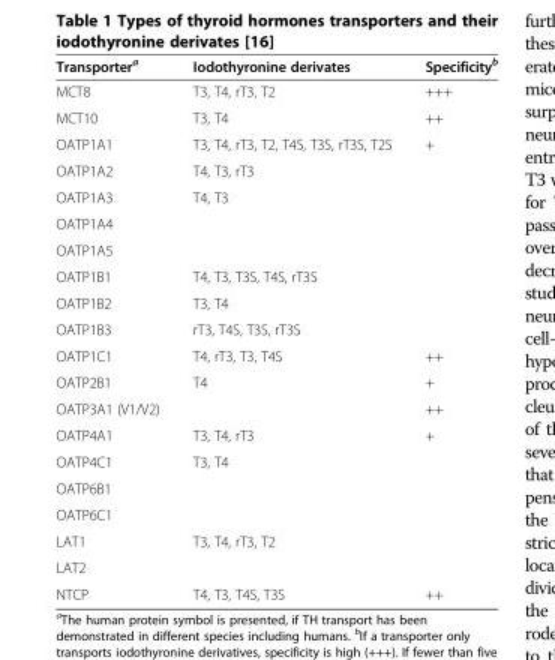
<table><thead><tr><td>Transporter<sup>a</sup></td><td>Iodothyronine derivates</td><td>Specificity<sup>b</sup></td></tr></thead><tbody><tr><td>MCT8</td><td>T3, T4, rT3, T2</td><td>+++</td></tr><tr><td>MCT10</td><td>T3, T4</td><td>++</td></tr><tr><td>OATP1A1</td><td>T3, T4, rT3, T2, T4S, T3S, rT3S, T2S</td><td rowspan="8">+</td></tr><tr><td>OATP1A2</td><td>T4, T3, rT3</td></tr><tr><td>OATP1A3</td><td rowspan="3">T4, T3</td></tr><tr><td>OATP1A4</td></tr><tr><td>OATP1A5</td></tr><tr><td>OATP1B1</td><td>T4, T3, T3S, T4S, rT3S</td></tr><tr><td>OATP1B2</td><td>T3, T4</td></tr><tr><td>OATP1B3</td><td>rT3, T4S, T3S, rT3S</td></tr><tr><td>OATP1C1</td><td>T4, rT3, T3, T4S</td><td>++</td></tr><tr><td>OATP2B1</td><td rowspan="2">T4</td><td>+</td></tr><tr><td>OATP3A1 (V1/V2)</td><td>++</td></tr><tr><td>OATP4A1</td><td>T3, T4, rT3</td><td rowspan="6">+</td></tr><tr><td>OATP4C1</td><td rowspan="3">T3, T4</td></tr><tr><td>OATP6B1</td></tr><tr><td>OATP6C1</td></tr><tr><td>LAT1</td><td rowspan="2">T3, T4, rT3, T2</td></tr><tr><td>LAT2</td></tr><tr><td>NTCP</td><td>T4, T3, T4S, T3S</td><td>++</td></tr></tbody></table>